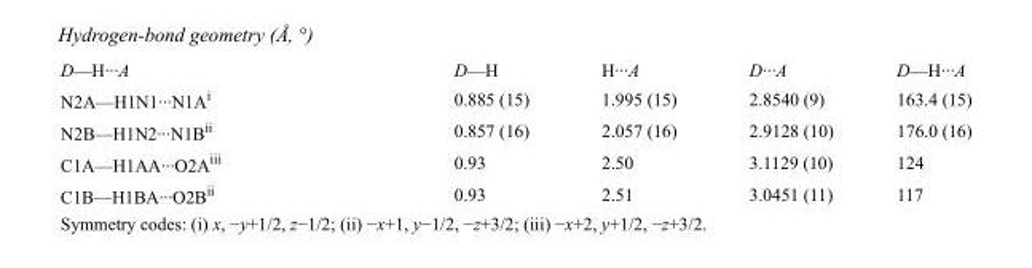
<table><tbody><tr><td>D—H···A</td><td>D—H</td><td>H···A</td><td>D···A</td><td>D—H···A</td></tr><tr><td>N2A—H1N1···N1A<sup>i</sup></td><td>0.885 (15)</td><td>1.995 (15)</td><td>2.8540 (9)</td><td>163.4 (15)</td></tr><tr><td>N2B—H1N2···N1B<sup>ii</sup></td><td>0.857 (16)</td><td>2.057 (16)</td><td>2.9128 (10)</td><td>176.0 (16)</td></tr><tr><td>C1A—H1AA···O2A<sup>iii</sup></td><td>0.93</td><td>2.50</td><td>3.1129 (10)</td><td>124</td></tr><tr><td>C1B—H1BA···O2B<sup>ii</sup></td><td>0.93</td><td>2.51</td><td>3.0451 (11)</td><td>117</td></tr></tbody></table>